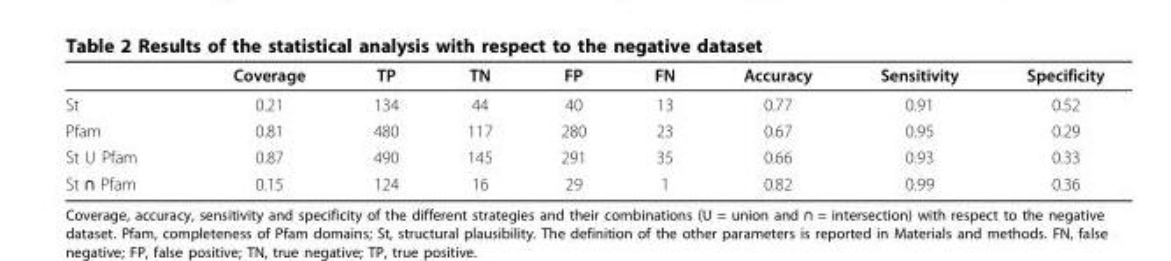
<table><thead><tr><td></td><td>Coverage</td><td>TP</td><td>TN</td><td>FP</td><td>FN</td><td>Accuracy</td><td>Sensitivity</td><td>Specificity</td></tr></thead><tbody><tr><td>St</td><td>0.21</td><td>134</td><td>44</td><td>40</td><td>13</td><td>0.77</td><td>0.91</td><td>0.52</td></tr><tr><td>Pfam</td><td>0.81</td><td>480</td><td>117</td><td>280</td><td>23</td><td>0.67</td><td>0.95</td><td>0.29</td></tr><tr><td>St U Pfam</td><td>0.87</td><td>490</td><td>145</td><td>291</td><td>35</td><td>0.66</td><td>0.93</td><td>0.33</td></tr><tr><td>St ∩ Pfam</td><td>0.15</td><td>124</td><td>16</td><td>29</td><td>1</td><td>0.82</td><td>0.99</td><td>0.36</td></tr></tbody></table>